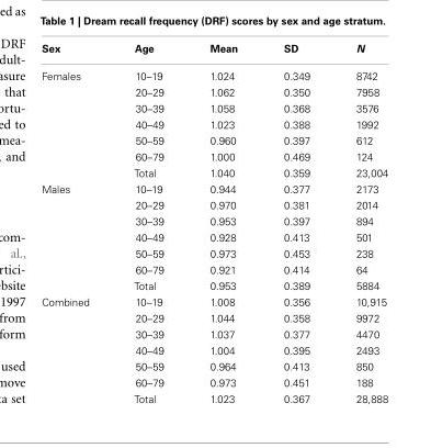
<table><thead><tr><td>Sex</td><td>Age</td><td>Mean</td><td>SD</td><td>N</td></tr></thead><tbody><tr><td rowspan="7">Females</td><td>10–19</td><td>1.024</td><td>0.349</td><td>8742</td></tr><tr><td>20–29</td><td>1.062</td><td>0.350</td><td>7958</td></tr><tr><td>30–39</td><td>1.058</td><td>0.368</td><td>3576</td></tr><tr><td>40–49</td><td>1.023</td><td>0.388</td><td>1992</td></tr><tr><td>50–59</td><td>0.960</td><td>0.397</td><td>612</td></tr><tr><td>60–79</td><td>1.000</td><td>0.469</td><td>124</td></tr><tr><td>Total</td><td>1.040</td><td>0.359</td><td>23,004</td></tr><tr><td rowspan="7">Males</td><td>10–19</td><td>0.944</td><td>0.377</td><td>2173</td></tr><tr><td>20–29</td><td>0.970</td><td>0.381</td><td>2014</td></tr><tr><td>30–39</td><td>0.953</td><td>0.397</td><td>894</td></tr><tr><td>40–49</td><td>0.928</td><td>0.413</td><td>501</td></tr><tr><td>50–59</td><td>0.973</td><td>0.453</td><td>238</td></tr><tr><td>60–79</td><td>0.921</td><td>0.414</td><td>64</td></tr><tr><td>Total</td><td>0.953</td><td>0.389</td><td>5884</td></tr><tr><td rowspan="7">Combined</td><td>10–19</td><td>1.008</td><td>0.356</td><td>10,915</td></tr><tr><td>20–29</td><td>1.044</td><td>0.358</td><td>9972</td></tr><tr><td>30–39</td><td>1.037</td><td>0.377</td><td>4470</td></tr><tr><td>40–49</td><td>1.004</td><td>0.395</td><td>2493</td></tr><tr><td>50–59</td><td>0.964</td><td>0.413</td><td>850</td></tr><tr><td>60–79</td><td>0.973</td><td>0.451</td><td>188</td></tr><tr><td>Total</td><td>1.023</td><td>0.367</td><td>28,888</td></tr></tbody></table>